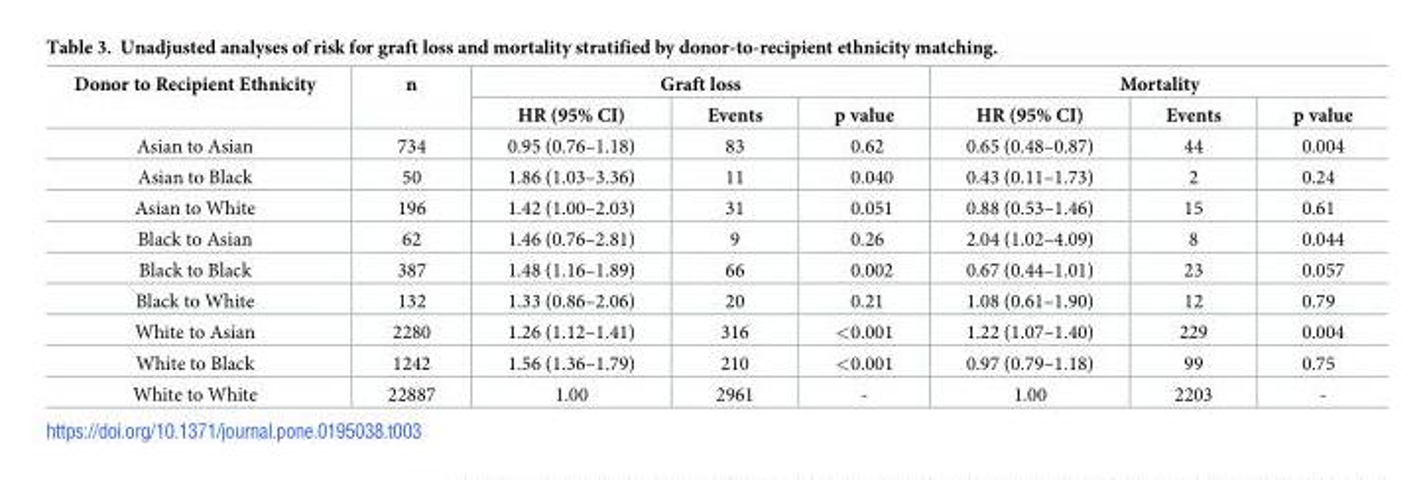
<table><thead><tr><td rowspan="2">Donor to Recipient Ethnicity</td><td rowspan="2">n</td><td colspan="3">Graft loss</td><td colspan="3">Mortality</td></tr><tr><td>HR (95% CI)</td><td>Events</td><td>p value</td><td>HR (95% CI)</td><td>Events</td><td>p value</td></tr></thead><tbody><tr><td>Asian to Asian</td><td>734</td><td>0.95 (0.76–1.18)</td><td>83</td><td>0.62</td><td>0.65 (0.48–0.87)</td><td>44</td><td>0.004</td></tr><tr><td>Asian to Black</td><td>50</td><td>1.86 (1.03–3.36)</td><td>11</td><td>0.040</td><td>0.43 (0.11–1.73)</td><td>2</td><td>0.24</td></tr><tr><td>Asian to White</td><td>196</td><td>1.42 (1.00–2.03)</td><td>31</td><td>0.051</td><td>0.88 (0.53–1.46)</td><td>15</td><td>0.61</td></tr><tr><td>Black to Asian</td><td>62</td><td>1.46 (0.76–2.81)</td><td>9</td><td>0.26</td><td>2.04 (1.02–4.09)</td><td>8</td><td>0.044</td></tr><tr><td>Black to Black</td><td>387</td><td>1.48 (1.16–1.89)</td><td>66</td><td>0.002</td><td>0.67 (0.44–1.01)</td><td>23</td><td>0.057</td></tr><tr><td>Black to White</td><td>132</td><td>1.33 (0.86–2.06)</td><td>20</td><td>0.21</td><td>1.08 (0.61–1.90)</td><td>12</td><td>0.79</td></tr><tr><td>White to Asian</td><td>2280</td><td>1.26 (1.12–1.41)</td><td>316</td><td>&lt;0.001</td><td>1.22 (1.07–1.40)</td><td>229</td><td>0.004</td></tr><tr><td>White to Black</td><td>1242</td><td>1.56 (1.36–1.79)</td><td>210</td><td>&lt;0.001</td><td>0.97 (0.79–1.18)</td><td>99</td><td>0.75</td></tr><tr><td>White to White</td><td>22887</td><td>1.00</td><td>2961</td><td>-</td><td>1.00</td><td>2203</td><td>-</td></tr></tbody></table>